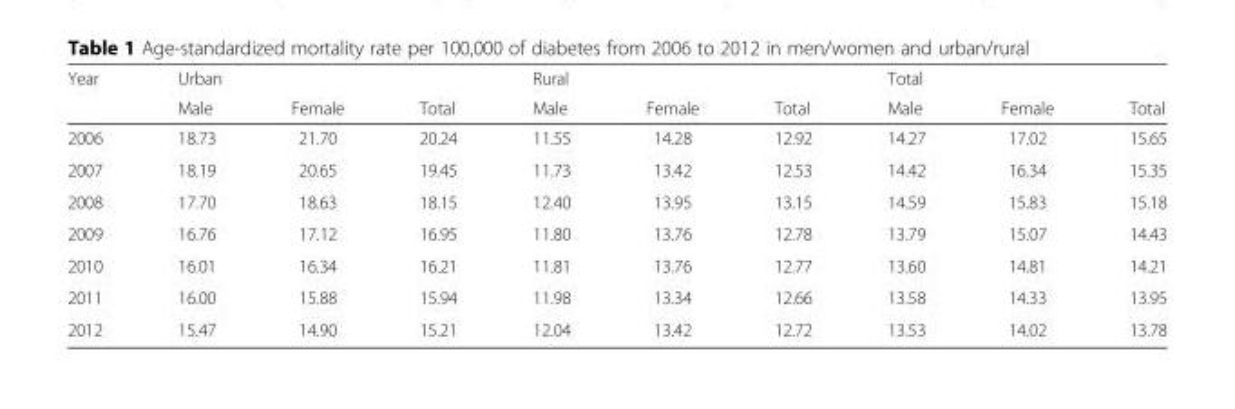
<table><thead><tr><td rowspan="2">Year</td><td colspan="3">Urban</td><td colspan="3">Rural</td><td colspan="3">Total</td></tr><tr><td>Male</td><td>Female</td><td>Total</td><td>Male</td><td>Female</td><td>Total</td><td>Male</td><td>Female</td><td>Total</td></tr></thead><tbody><tr><td>2006</td><td>18.73</td><td>21.70</td><td>20.24</td><td>11.55</td><td>14.28</td><td>12.92</td><td>14.27</td><td>17.02</td><td>15.65</td></tr><tr><td>2007</td><td>18.19</td><td>20.65</td><td>19.45</td><td>11.73</td><td>13.42</td><td>12.53</td><td>14.42</td><td>16.34</td><td>15.35</td></tr><tr><td>2008</td><td>17.70</td><td>18.63</td><td>18.15</td><td>12.40</td><td>13.95</td><td>13.15</td><td>14.59</td><td>15.83</td><td>15.18</td></tr><tr><td>2009</td><td>16.76</td><td>17.12</td><td>16.95</td><td>11.80</td><td>13.76</td><td>12.78</td><td>13.79</td><td>15.07</td><td>14.43</td></tr><tr><td>2010</td><td>16.01</td><td>16.34</td><td>16.21</td><td>11.81</td><td>13.76</td><td>12.77</td><td>13.60</td><td>14.81</td><td>14.21</td></tr><tr><td>2011</td><td>16.00</td><td>15.88</td><td>15.94</td><td>11.98</td><td>13.34</td><td>12.66</td><td>13.58</td><td>14.33</td><td>13.95</td></tr><tr><td>2012</td><td>15.47</td><td>14.90</td><td>15.21</td><td>12.04</td><td>13.42</td><td>12.72</td><td>13.53</td><td>14.02</td><td>13.78</td></tr></tbody></table>